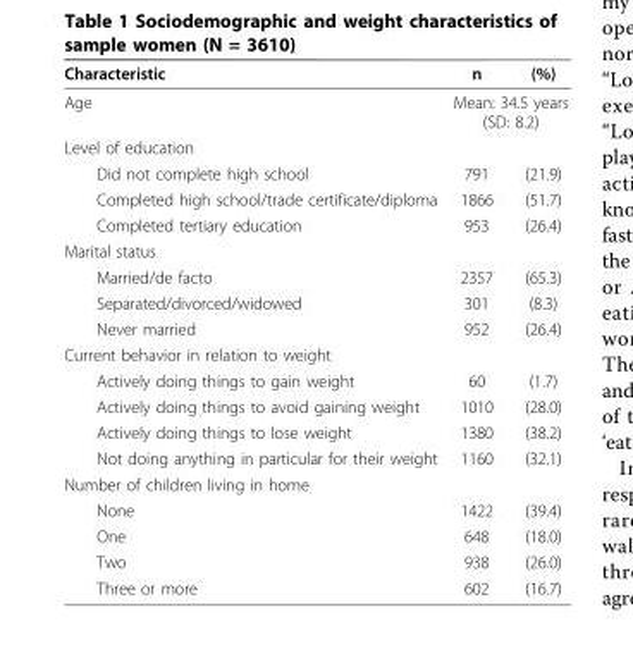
<table><thead><tr><td>Characteristic</td><td>n</td><td>(%)</td></tr></thead><tbody><tr><td>Age</td><td colspan="2">Mean: 34.5 years (SD: 8.2)</td></tr><tr><td colspan="3">Level of education</td></tr><tr><td>Did not complete high school</td><td>791</td><td>(21.9)</td></tr><tr><td>Completed high school/trade certificate/diploma</td><td>1866</td><td>(51.7)</td></tr><tr><td>Completed tertiary education</td><td>953</td><td>(26.4)</td></tr><tr><td colspan="3">Marital status</td></tr><tr><td>Married/de facto</td><td>2357</td><td>(65.3)</td></tr><tr><td>Separated/divorced/widowed</td><td>301</td><td>(8.3)</td></tr><tr><td>Never married</td><td>952</td><td>(26.4)</td></tr><tr><td colspan="3">Current behavior in relation to weight</td></tr><tr><td>Actively doing things to gain weight</td><td>60</td><td>(1.7)</td></tr><tr><td>Actively doing things to avoid gaining weight</td><td>1010</td><td>(28.0)</td></tr><tr><td>Actively doing things to lose weight</td><td>1380</td><td>(38.2)</td></tr><tr><td>Not doing anything in particular for their weight</td><td>1160</td><td>(32.1)</td></tr><tr><td colspan="3">Number of children living in home</td></tr><tr><td>None</td><td>1422</td><td>(39.4)</td></tr><tr><td>One</td><td>648</td><td>(18.0)</td></tr><tr><td>Two</td><td>938</td><td>(26.0)</td></tr><tr><td>Three or more</td><td>602</td><td>(16.7)</td></tr></tbody></table>